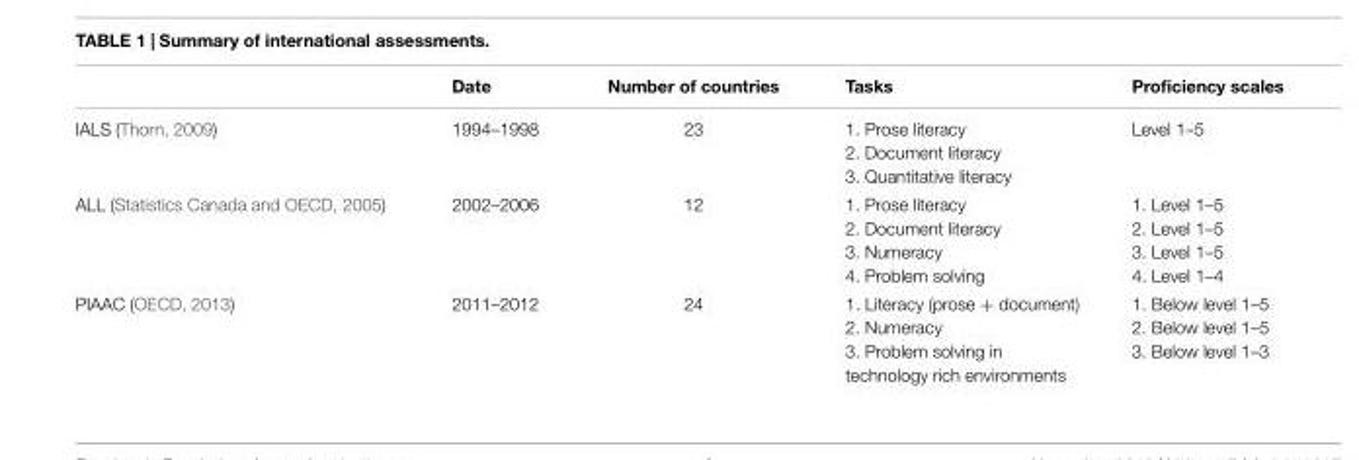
<table><thead><tr><td></td><td>Date</td><td>Number of countries</td><td>Tasks</td><td>Proficiency scales</td></tr></thead><tbody><tr><td>IALS (Thorn, 2009)</td><td>1994–1998</td><td>23</td><td>1. Prose literacy 2. Document literacy 3. Quantitative literacy</td><td>Level 1–5</td></tr><tr><td>ALL (Statistics Canada and OECD, 2005)</td><td>2002–2006</td><td>12</td><td>1. Prose literacy 2. Document literacy 3. Numeracy 4. Problem solving</td><td>1. Level 1–5 2. Level 1–5 3. Level 1–5 4. Level 1–4</td></tr><tr><td>PIAAC (OECD, 2013)</td><td>2011–2012</td><td>24</td><td>1. Literacy (prose + document) 2. Numeracy 3. Problem solving in technology rich environments</td><td>1. Below level 1–5 2. Below level 1–5 3. Below level 1–3</td></tr></tbody></table>